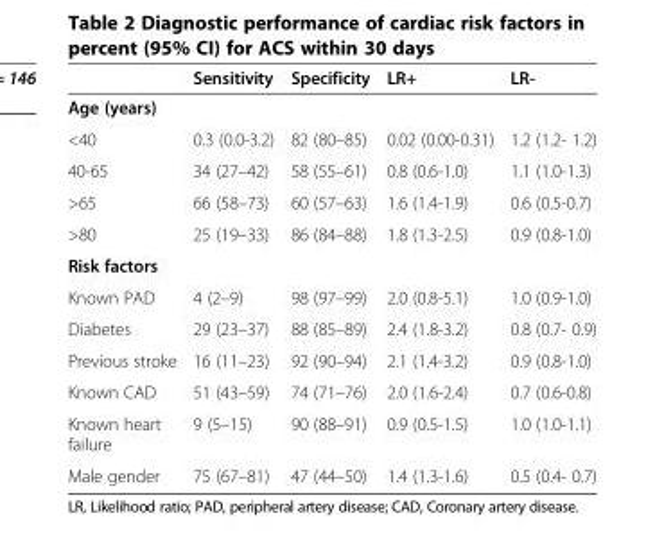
<table><thead><tr><td></td><td>Sensitivity</td><td>Specificity</td><td>LR+</td><td>LR-</td></tr></thead><tbody><tr><td colspan="5">Age (years)</td></tr><tr><td>&lt;40</td><td>0.3 (0.0-3.2)</td><td>82 (80–85)</td><td>0.02 (0.00-0.31)</td><td>1.2 (1.2- 1.2)</td></tr><tr><td>40-65</td><td>34 (27–42)</td><td>58 (55–61)</td><td>0.8 (0.6-1.0)</td><td>1.1 (1.0-1.3)</td></tr><tr><td>&gt;65</td><td>66 (58–73)</td><td>60 (57–63)</td><td>1.6 (1.4-1.9)</td><td>0.6 (0.5-0.7)</td></tr><tr><td>&gt;80</td><td>25 (19–33)</td><td>86 (84–88)</td><td>1.8 (1.3-2.5)</td><td>0.9 (0.8-1.0)</td></tr><tr><td colspan="5">Risk factors</td></tr><tr><td>Known PAD</td><td>4 (2–9)</td><td>98 (97–99)</td><td>2.0 (0.8-5.1)</td><td>1.0 (0.9-1.0)</td></tr><tr><td>Diabetes</td><td>29 (23–37)</td><td>88 (85–89)</td><td>2.4 (1.8-3.2)</td><td>0.8 (0.7- 0.9)</td></tr><tr><td>Previous stroke</td><td>16 (11–23)</td><td>92 (90–94)</td><td>2.1 (1.4-3.2)</td><td>0.9 (0.8-1.0)</td></tr><tr><td>Known CAD</td><td>51 (43–59)</td><td>74 (71–76)</td><td>2.0 (1.6-2.4)</td><td>0.7 (0.6-0.8)</td></tr><tr><td>Known heart failure</td><td>9 (5–15)</td><td>90 (88–91)</td><td>0.9 (0.5-1.5)</td><td>1.0 (1.0-1.1)</td></tr><tr><td>Male gender</td><td>75 (67–81)</td><td>47 (44–50)</td><td>1.4 (1.3-1.6)</td><td>0.5 (0.4- 0.7)</td></tr></tbody></table>